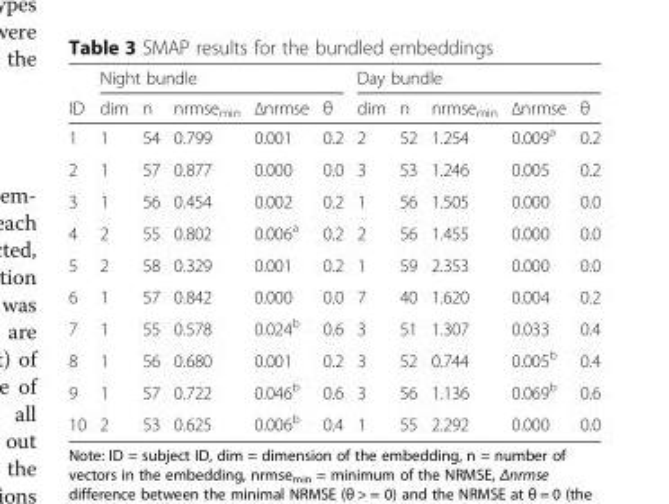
<table><thead><tr><td rowspan="2">ID</td><td colspan="5">Night bundle</td><td colspan="5">Day bundle</td></tr><tr><td>dim</td><td>n</td><td>nrmse<sub>min</sub></td><td>Δnrmse</td><td>θ</td><td>dim</td><td>n</td><td>nrmse<sub>min</sub></td><td>Δnrmse</td><td>θ</td></tr></thead><tbody><tr><td>1</td><td>1</td><td>54</td><td>0.799</td><td>0.001</td><td>0.2</td><td>2</td><td>52</td><td>1.254</td><td>0.009<sup>a</sup></td><td>0.2</td></tr><tr><td>2</td><td>1</td><td>57</td><td>0.877</td><td>0.000</td><td>0.0</td><td>3</td><td>53</td><td>1.246</td><td>0.005</td><td>0.2</td></tr><tr><td>3</td><td>1</td><td>56</td><td>0.454</td><td>0.002</td><td>0.2</td><td>1</td><td>56</td><td>1.505</td><td>0.000</td><td>0.0</td></tr><tr><td>4</td><td>2</td><td>55</td><td>0.802</td><td>0.006<sup>a</sup></td><td>0.2</td><td>2</td><td>56</td><td>1.455</td><td>0.000</td><td>0.0</td></tr><tr><td>5</td><td>2</td><td>58</td><td>0.329</td><td>0.001</td><td>0.2</td><td>1</td><td>59</td><td>2.353</td><td>0.000</td><td>0.0</td></tr><tr><td>6</td><td>1</td><td>57</td><td>0.842</td><td>0.000</td><td>0.0</td><td>7</td><td>40</td><td>1.620</td><td>0.004</td><td>0.2</td></tr><tr><td>7</td><td>1</td><td>55</td><td>0.578</td><td>0.024<sup>b</sup></td><td>0.6</td><td>3</td><td>51</td><td>1.307</td><td>0.033</td><td>0.4</td></tr><tr><td>8</td><td>1</td><td>56</td><td>0.680</td><td>0.001</td><td>0.2</td><td>3</td><td>52</td><td>0.744</td><td>0.005<sup>b</sup></td><td>0.4</td></tr><tr><td>9</td><td>1</td><td>57</td><td>0.722</td><td>0.046<sup>b</sup></td><td>0.6</td><td>3</td><td>56</td><td>1.136</td><td>0.069<sup>b</sup></td><td>0.6</td></tr><tr><td>10</td><td>2</td><td>53</td><td>0.625</td><td>0.006<sup>b</sup></td><td>0.4</td><td>1</td><td>55</td><td>2.292</td><td>0.000</td><td>0.0</td></tr></tbody></table>